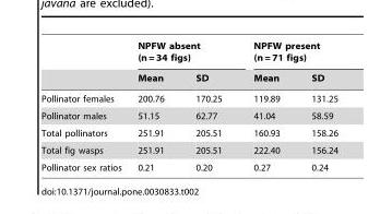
<table><thead><tr><td rowspan="2"></td><td colspan="2">NPFW absent (n = 34 figs)</td><td colspan="2">NPFW present (n = 71 figs)</td></tr><tr><td>Mean</td><td>SD</td><td>Mean</td><td>SD</td></tr></thead><tbody><tr><td>Pollinator females</td><td>200.76</td><td>170.25</td><td>119.89</td><td>131.25</td></tr><tr><td>Pollinator males</td><td>51.15</td><td>62.77</td><td>41.04</td><td>58.59</td></tr><tr><td>Total pollinators</td><td>251.91</td><td>205.51</td><td>160.93</td><td>158.26</td></tr><tr><td>Total fig wasps</td><td>251.91</td><td>205.51</td><td>222.40</td><td>156.24</td></tr><tr><td>Pollinator sex ratios</td><td>0.21</td><td>0.20</td><td>0.27</td><td>0.24</td></tr></tbody></table>